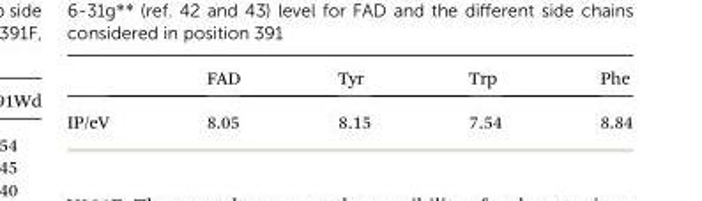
<table><thead><tr><td></td><td>FAD</td><td>Tyr</td><td>Trp</td><td>Phe</td></tr></thead><tbody><tr><td>IP/eV</td><td>8.05</td><td>8.15</td><td>7.54</td><td>8.84</td></tr></tbody></table>